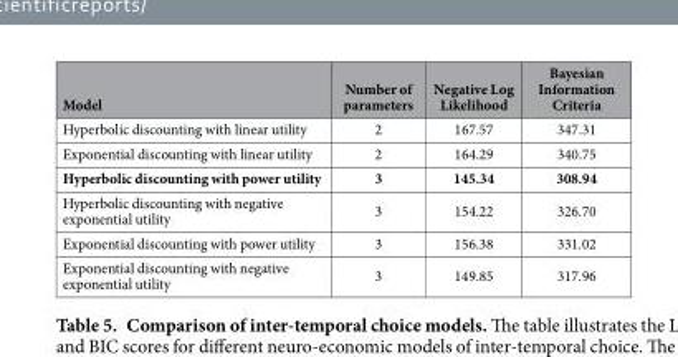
<table><thead><tr><td>Model</td><td>Number of parameters</td><td>Negative Log Likelihood</td><td>Bayesian Information Criteria</td></tr></thead><tbody><tr><td>Hyperbolic discounting with linear utility</td><td>2</td><td>167.57</td><td>347.31</td></tr><tr><td>Exponential discounting with linear utility</td><td>2</td><td>164.29</td><td>340.75</td></tr><tr><td>Hyperbolic discounting with power utility</td><td>3</td><td>145.34</td><td>308.94</td></tr><tr><td>Hyperbolic discounting with negative exponential utility</td><td>3</td><td>154.22</td><td>326.70</td></tr><tr><td>Exponential discounting with power utility</td><td>3</td><td>156.38</td><td>331.02</td></tr><tr><td>Exponential discounting with negative exponential utility</td><td>3</td><td>149.85</td><td>317.96</td></tr></tbody></table>